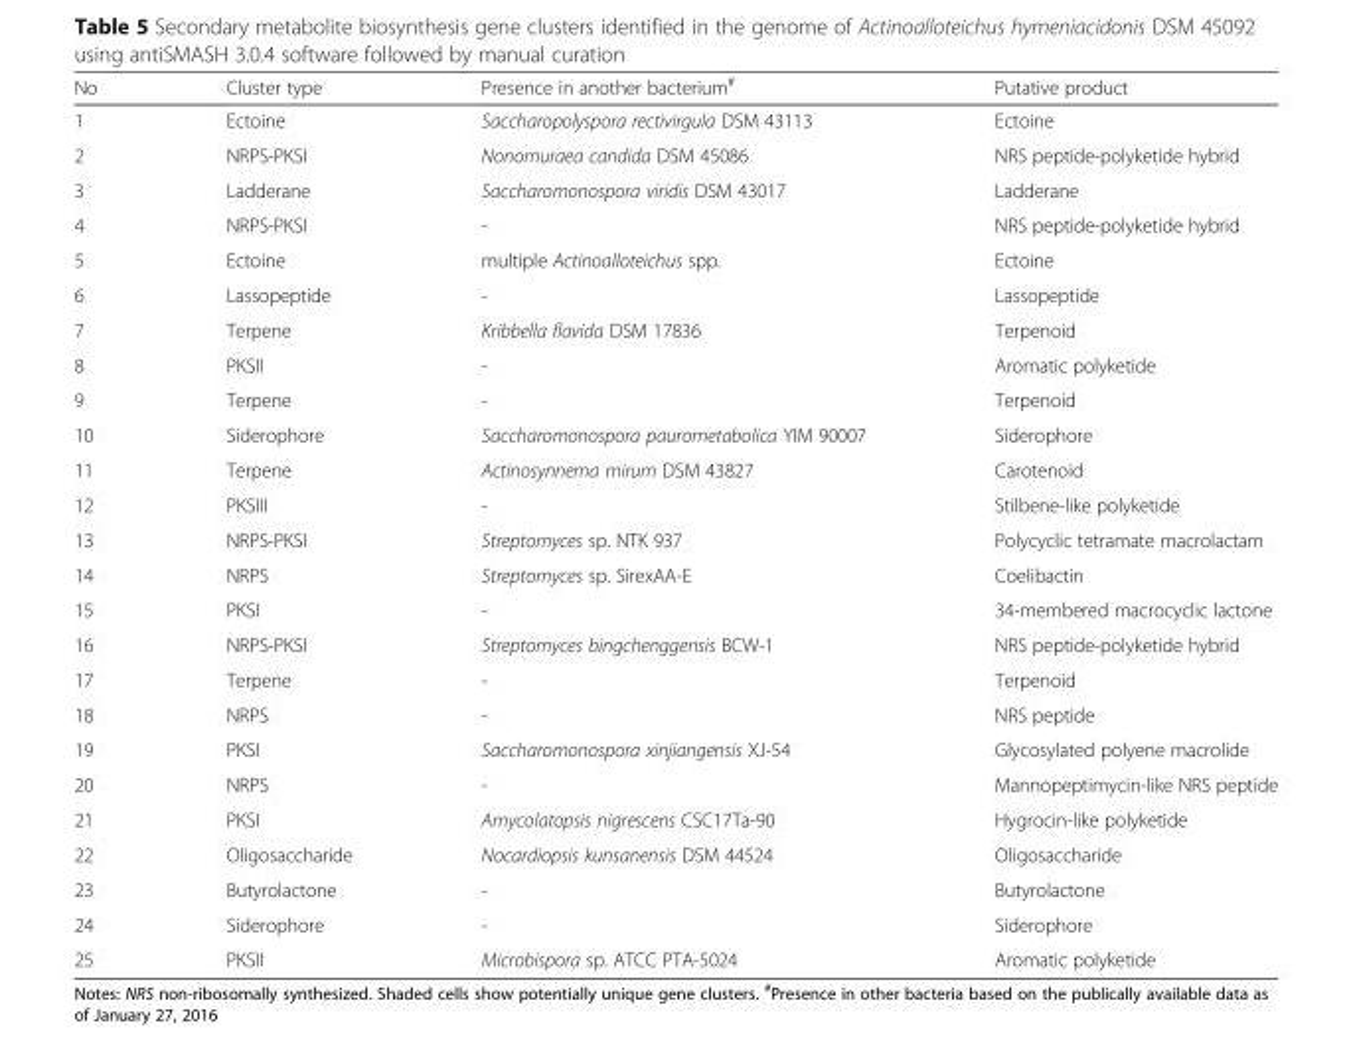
<table><thead><tr><td>No</td><td>Cluster type</td><td>Presence in another bacterium<sup>#</sup></td><td>Putative product</td></tr></thead><tbody><tr><td>1</td><td>Ectoine</td><td>Saccharopolyspora rectivirgula DSM 43113</td><td>Ectoine</td></tr><tr><td>2</td><td>NRPS-PKSI</td><td>Nonomuraea candida DSM 45086</td><td>NRS peptide-polyketide hybrid</td></tr><tr><td>3</td><td>Ladderane</td><td>Saccharomonospora viridis DSM 43017</td><td>Ladderane</td></tr><tr><td>4</td><td>NRPS-PKSI</td><td>-</td><td>NRS peptide-polyketide hybrid</td></tr><tr><td>5</td><td>Ectoine</td><td>multiple Actinoalloteichus spp.</td><td>Ectoine</td></tr><tr><td>6</td><td>Lassopeptide</td><td>-</td><td>Lassopeptide</td></tr><tr><td>7</td><td>Terpene</td><td>Kribbella flavida DSM 17836</td><td>Terpenoid</td></tr><tr><td>8</td><td>PKSII</td><td>-</td><td>Aromatic polyketide</td></tr><tr><td>9</td><td>Terpene</td><td>-</td><td>Terpenoid</td></tr><tr><td>10</td><td>Siderophore</td><td>Saccharomonospora paurometabolica YIM 90007</td><td>Siderophore</td></tr><tr><td>11</td><td>Terpene</td><td>Actinosynnema mirum DSM 43827</td><td>Carotenoid</td></tr><tr><td>12</td><td>PKSIII</td><td>-</td><td>Stilbene-like polyketide</td></tr><tr><td>13</td><td>NRPS-PKSI</td><td>Streptomyces sp. NTK 937</td><td>Polycyclic tetramate macrolactam</td></tr><tr><td>14</td><td>NRPS</td><td>Streptomyces sp. SirexAA-E</td><td>Coelibactin</td></tr><tr><td>15</td><td>PKSI</td><td>-</td><td>34-membered macrocyclic lactone</td></tr><tr><td>16</td><td>NRPS-PKSI</td><td>Streptomyces bingchenggensis BCW-1</td><td>NRS peptide-polyketide hybrid</td></tr><tr><td>17</td><td>Terpene</td><td>-</td><td>Terpenoid</td></tr><tr><td>18</td><td>NRPS</td><td>-</td><td>NRS peptide</td></tr><tr><td>19</td><td>PKSI</td><td>Saccharomonospora xinjiangensis XJ-54</td><td>Glycosylated polyene macrolide</td></tr><tr><td>20</td><td>NRPS</td><td>-</td><td>Mannopeptimycin-like NRS peptide</td></tr><tr><td>21</td><td>PKSI</td><td>Amycolatopsis nigrescens CSC17Ta-90</td><td>Hygrocin-like polyketide</td></tr><tr><td>22</td><td>Oligosaccharide</td><td>Nocardiopsis kunsanensis DSM 44524</td><td>Oligosaccharide</td></tr><tr><td>23</td><td>Butyrolactone</td><td>-</td><td>Butyrolactone</td></tr><tr><td>24</td><td>Siderophore</td><td>-</td><td>Siderophore</td></tr><tr><td>25</td><td>PKSII</td><td>Microbispora sp. ATCC PTA-5024</td><td>Aromatic polyketide</td></tr></tbody></table>